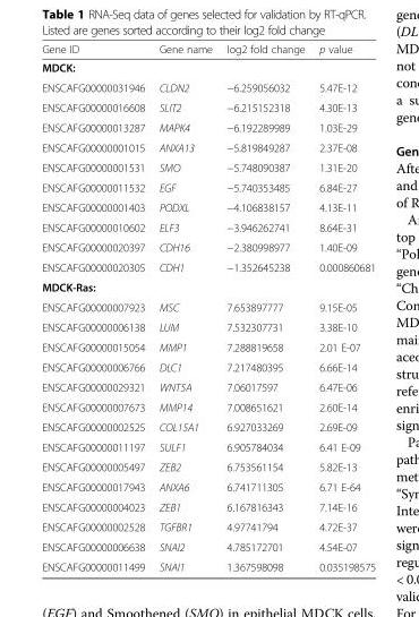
<table><thead><tr><td>Gene ID</td><td>Gene name</td><td>log2 fold change</td><td>p value</td></tr></thead><tbody><tr><td colspan="4">MDCK:</td></tr><tr><td>ENSCAFG00000031946</td><td>CLDN2</td><td>−6.259056032</td><td>5.47E-12</td></tr><tr><td>ENSCAFG00000016608</td><td>SLIT2</td><td>−6.215152318</td><td>4.30E-13</td></tr><tr><td>ENSCAFG00000013287</td><td>MAPK4</td><td>−6.192289989</td><td>1.03E-29</td></tr><tr><td>ENSCAFG00000001015</td><td>ANXA13</td><td>−5.819849287</td><td>2.37E-08</td></tr><tr><td>ENSCAFG00000001531</td><td>SMO</td><td>−5.748090387</td><td>1.31E-20</td></tr><tr><td>ENSCAFG00000011532</td><td>EGF</td><td>−5.740353485</td><td>6.84E-27</td></tr><tr><td>ENSCAFG00000001403</td><td>PODXL</td><td>−4.106838157</td><td>4.13E-11</td></tr><tr><td>ENSCAFG00000010602</td><td>ELF3</td><td>−3.946262741</td><td>8.64E-31</td></tr><tr><td>ENSCAFG00000020397</td><td>CDH16</td><td>−2.380998977</td><td>1.40E-09</td></tr><tr><td>ENSCAFG00000020305</td><td>CDH1</td><td>−1.352645238</td><td>0.000860681</td></tr><tr><td colspan="4">MDCK-Ras:</td></tr><tr><td>ENSCAFG00000007923</td><td>MSC</td><td>7.653897777</td><td>9.15E-05</td></tr><tr><td>ENSCAFG00000006138</td><td>LUM</td><td>7.532307731</td><td>3.38E-10</td></tr><tr><td>ENSCAFG00000015054</td><td>MMP1</td><td>7.288819658</td><td>2.01 E-07</td></tr><tr><td>ENSCAFG00000006766</td><td>DLC1</td><td>7.217480395</td><td>6.66E-14</td></tr><tr><td>ENSCAFG00000029321</td><td>WNT5A</td><td>7.06017597</td><td>6.47E-06</td></tr><tr><td>ENSCAFG00000007673</td><td>MMP14</td><td>7.008651621</td><td>2.60E-14</td></tr><tr><td>ENSCAFG00000002525</td><td>COL15A1</td><td>6.927033269</td><td>2.69E-09</td></tr><tr><td>ENSCAFG00000011197</td><td>SULF1</td><td>6.905784034</td><td>6.41 E-09</td></tr><tr><td>ENSCAFG00000005497</td><td>ZEB2</td><td>6.753561154</td><td>5.82E-13</td></tr><tr><td>ENSCAFG00000017943</td><td>ANXA6</td><td>6.741711305</td><td>6.71 E-64</td></tr><tr><td>ENSCAFG00000004023</td><td>ZEB1</td><td>6.167816343</td><td>7.14E-16</td></tr><tr><td>ENSCAFG00000002528</td><td>TGFBR1</td><td>4.97741794</td><td>4.72E-37</td></tr><tr><td>ENSCAFG00000006638</td><td>SNAI2</td><td>4.785172701</td><td>4.54E-07</td></tr><tr><td>ENSCAFG00000011499</td><td>SNAI1</td><td>1.367598098</td><td>0.035198575</td></tr></tbody></table>